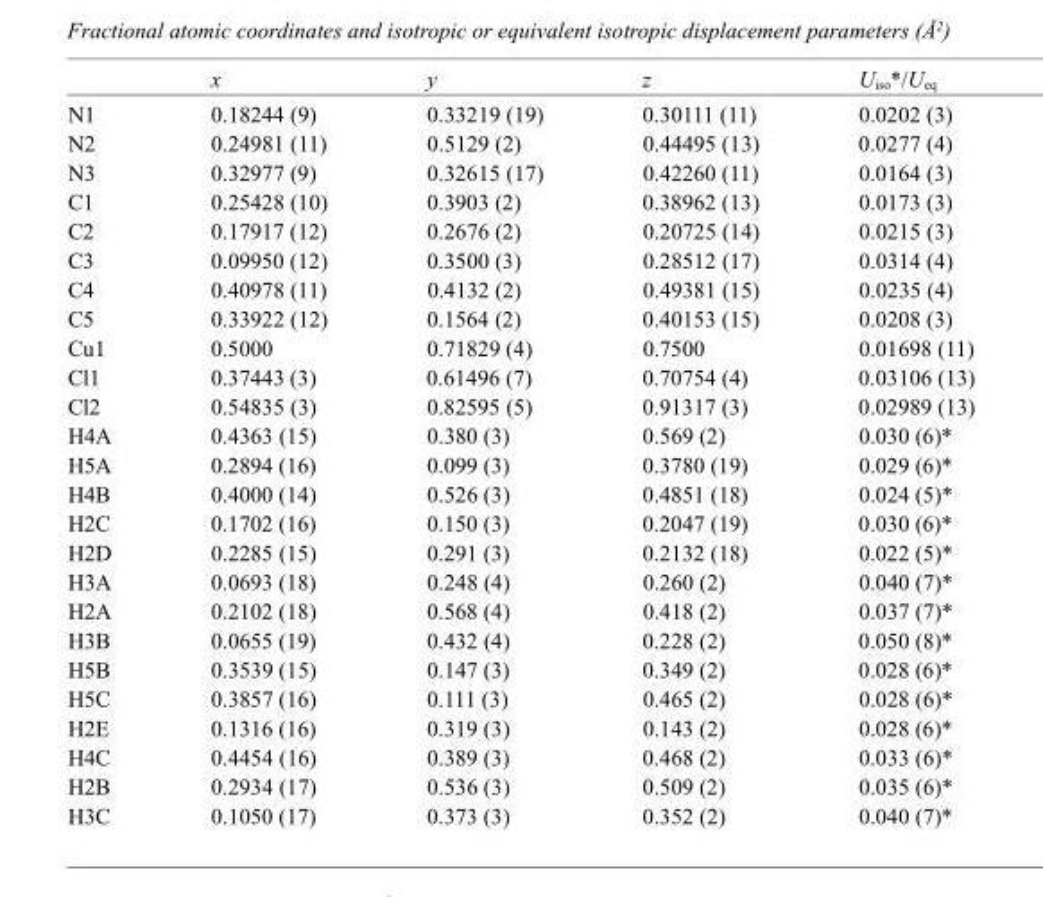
<table><thead><tr><td></td><td>x</td><td>y</td><td>z</td><td>U<sub>iso</sub>*/U<sub>eq</sub></td></tr></thead><tbody><tr><td>N1</td><td>0.18244 (9)</td><td>0.33219 (19)</td><td>0.30111 (11)</td><td>0.0202 (3)</td></tr><tr><td>N2</td><td>0.24981 (11)</td><td>0.5129 (2)</td><td>0.44495 (13)</td><td>0.0277 (4)</td></tr><tr><td>N3</td><td>0.32977 (9)</td><td>0.32615 (17)</td><td>0.42260 (11)</td><td>0.0164 (3)</td></tr><tr><td>C1</td><td>0.25428 (10)</td><td>0.3903 (2)</td><td>0.38962 (13)</td><td>0.0173 (3)</td></tr><tr><td>C2</td><td>0.17917 (12)</td><td>0.2676 (2)</td><td>0.20725 (14)</td><td>0.0215 (3)</td></tr><tr><td>C3</td><td>0.09950 (12)</td><td>0.3500 (3)</td><td>0.28512 (17)</td><td>0.0314 (4)</td></tr><tr><td>C4</td><td>0.40978 (11)</td><td>0.4132 (2)</td><td>0.49381 (15)</td><td>0.0235 (4)</td></tr><tr><td>C5</td><td>0.33922 (12)</td><td>0.1564 (2)</td><td>0.40153 (15)</td><td>0.0208 (3)</td></tr><tr><td>Cu1</td><td>0.5000</td><td>0.71829 (4)</td><td>0.7500</td><td>0.01698 (11)</td></tr><tr><td>Cl1</td><td>0.37443 (3)</td><td>0.61496 (7)</td><td>0.70754 (4)</td><td>0.03106 (13)</td></tr><tr><td>Cl2</td><td>0.54835 (3)</td><td>0.82595 (5)</td><td>0.91317 (3)</td><td>0.02989 (13)</td></tr><tr><td>H4A</td><td>0.4363 (15)</td><td>0.380 (3)</td><td>0.569 (2)</td><td>0.030 (6)*</td></tr><tr><td>H5A</td><td>0.2894 (16)</td><td>0.099 (3)</td><td>0.3780 (19)</td><td>0.029 (6)*</td></tr><tr><td>H4B</td><td>0.4000 (14)</td><td>0.526 (3)</td><td>0.4851 (18)</td><td>0.024 (5)*</td></tr><tr><td>H2C</td><td>0.1702 (16)</td><td>0.150 (3)</td><td>0.2047 (19)</td><td>0.030 (6)*</td></tr><tr><td>H2D</td><td>0.2285 (15)</td><td>0.291 (3)</td><td>0.2132 (18)</td><td>0.022 (5)*</td></tr><tr><td>H3A</td><td>0.0693 (18)</td><td>0.248 (4)</td><td>0.260 (2)</td><td>0.040 (7)*</td></tr><tr><td>H2A</td><td>0.2102 (18)</td><td>0.568 (4)</td><td>0.418 (2)</td><td>0.037 (7)*</td></tr><tr><td>H3B</td><td>0.0655 (19)</td><td>0.432 (4)</td><td>0.228 (2)</td><td>0.050 (8)*</td></tr><tr><td>H5B</td><td>0.3539 (15)</td><td>0.147 (3)</td><td>0.349 (2)</td><td>0.028 (6)*</td></tr><tr><td>H5C</td><td>0.3857 (16)</td><td>0.111 (3)</td><td>0.465 (2)</td><td>0.028 (6)*</td></tr><tr><td>H2E</td><td>0.1316 (16)</td><td>0.319 (3)</td><td>0.143 (2)</td><td>0.028 (6)*</td></tr><tr><td>H4C</td><td>0.4454 (16)</td><td>0.389 (3)</td><td>0.468 (2)</td><td>0.033 (6)*</td></tr><tr><td>H2B</td><td>0.2934 (17)</td><td>0.536 (3)</td><td>0.509 (2)</td><td>0.035 (6)*</td></tr><tr><td>H3C</td><td>0.1050 (17)</td><td>0.373 (3)</td><td>0.352 (2)</td><td>0.040 (7)*</td></tr></tbody></table>